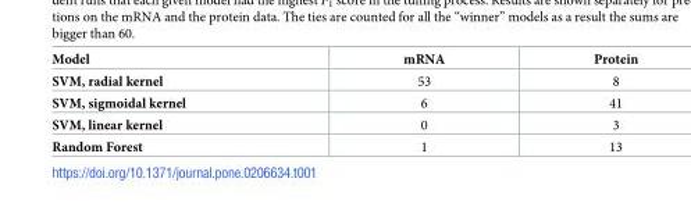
<table><thead><tr><td>Model</td><td>mRNA</td><td>Protein</td></tr></thead><tbody><tr><td>SVM, radial kernel</td><td>53</td><td>8</td></tr><tr><td>SVM, sigmoidal kernel</td><td>6</td><td>41</td></tr><tr><td>SVM, linear kernel</td><td>0</td><td>3</td></tr><tr><td>Random Forest</td><td>1</td><td>13</td></tr></tbody></table>